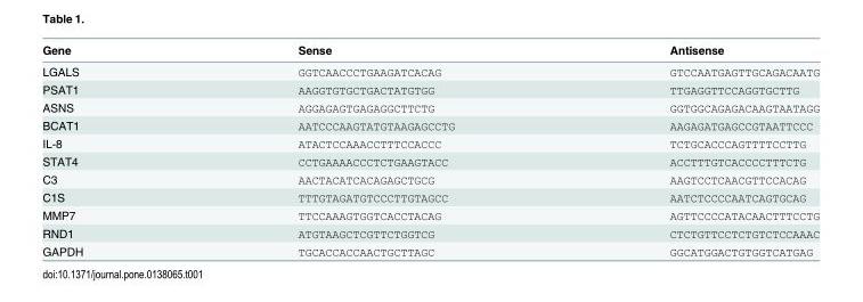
<table><thead><tr><td>Gene</td><td>Sense</td><td>Antisense</td></tr></thead><tbody><tr><td>LGALS</td><td>GGTCAACCCTGAAGATCACAG</td><td>GTCCAATGAGTTGCAGACAATG</td></tr><tr><td>PSAT1</td><td>AAGGTGTGCTGACTATGTGG</td><td>TTGAGGTTCCAGGTGCTTG</td></tr><tr><td>ASNS</td><td>AGGAGAGTGAGAGGCTTCTG</td><td>GGTGGCAGAGACAAGTAATAGG</td></tr><tr><td>BCAT1</td><td>AATCCCAAGTATGTAAGAGCCTG</td><td>AAGAGATGAGCCGTAATTCCC</td></tr><tr><td>IL-8</td><td>ATACTCCAAACCTTTCCACCC</td><td>TCTGCACCCAGTTTTCCTTG</td></tr><tr><td>STAT4</td><td>CCTGAAAACCCTCTGAAGTACC</td><td>ACCTTTGTCACCCCTTTCTG</td></tr><tr><td>C3</td><td>AACTACATCACAGAGCTGCG</td><td>AAGTCCTCAACGTTCCACAG</td></tr><tr><td>C1S</td><td>TTTGTAGATGTCCCTTGTAGCC</td><td>AATCTCCCCAATCAGTGCAG</td></tr><tr><td>MMP7</td><td>TTCCAAAGTGGTCACCTACAG</td><td>AGTTCCCCATACAACTTTCCTG</td></tr><tr><td>RND1</td><td>ATGTAAGCTCGTTCTGGTCG</td><td>CTCTGTTCCTCTGTCTCCAAAC</td></tr><tr><td>GAPDH</td><td>TGCACCACCAACTGCTTAGC</td><td>GGCATGGACTGTGGTCATGAG</td></tr></tbody></table>